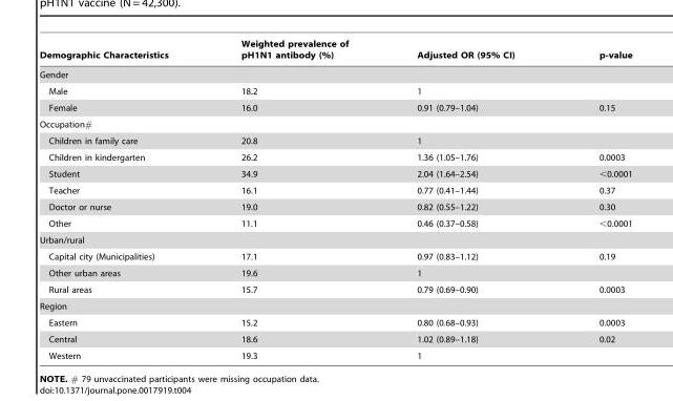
<table><thead><tr><td>Demographic Characteristics</td><td>Weighted prevalence of pH1N1 antibody (%)</td><td>Adjusted OR (95% CI)</td><td>p-value</td></tr></thead><tbody><tr><td colspan="4">Gender</td></tr><tr><td>Male</td><td>18.2</td><td>1</td><td></td></tr><tr><td>Female</td><td>16.0</td><td>0.91 (0.79–1.04)</td><td>0.15</td></tr><tr><td colspan="4">Occupation#</td></tr><tr><td>Children in family care</td><td>20.8</td><td>1</td><td></td></tr><tr><td>Children in kindergarten</td><td>26.2</td><td>1.36 (1.05–1.76)</td><td>0.0003</td></tr><tr><td>Student</td><td>34.9</td><td>2.04 (1.64–2.54)</td><td>&lt;0.0001</td></tr><tr><td>Teacher</td><td>16.1</td><td>0.77 (0.41–1.44)</td><td>0.37</td></tr><tr><td>Doctor or nurse</td><td>19.0</td><td>0.82 (0.55–1.22)</td><td>0.30</td></tr><tr><td>Other</td><td>11.1</td><td>0.46 (0.37–0.58)</td><td>&lt;0.0001</td></tr><tr><td colspan="4">Urban/rural</td></tr><tr><td>Capital city (Municipalities)</td><td>17.1</td><td>0.97 (0.83–1.12)</td><td>0.19</td></tr><tr><td>Other urban areas</td><td>19.6</td><td>1</td><td></td></tr><tr><td>Rural areas</td><td>15.7</td><td>0.79 (0.69–0.90)</td><td>0.0003</td></tr><tr><td colspan="4">Region</td></tr><tr><td>Eastern</td><td>15.2</td><td>0.80 (0.68–0.93)</td><td>0.0003</td></tr><tr><td>Central</td><td>18.6</td><td>1.02 (0.89–1.18)</td><td>0.02</td></tr><tr><td>Western</td><td>19.3</td><td>1</td><td></td></tr></tbody></table>